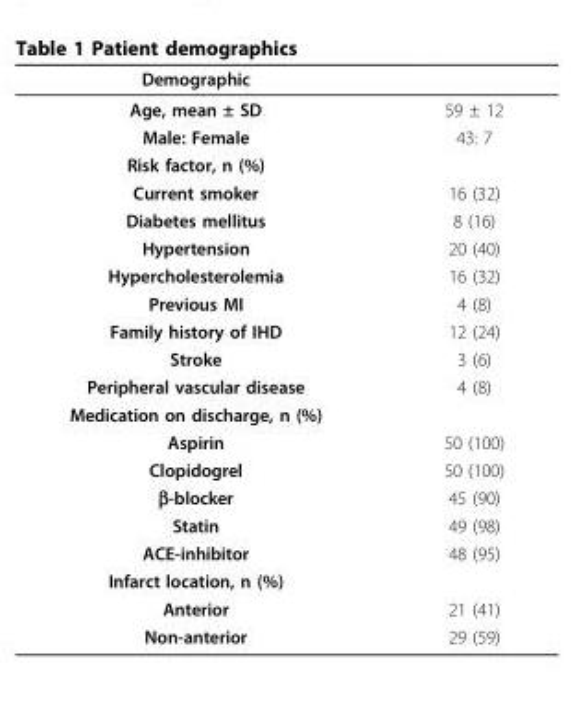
<table><thead><tr><td>Demographic</td><td></td></tr></thead><tbody><tr><td>Age, mean ± SD</td><td>59 ± 12</td></tr><tr><td>Male: Female</td><td>43: 7</td></tr><tr><td colspan="2">Risk factor, n (%)</td></tr><tr><td>Current smoker</td><td>16 (32)</td></tr><tr><td>Diabetes mellitus</td><td>8 (16)</td></tr><tr><td>Hypertension</td><td>20 (40)</td></tr><tr><td>Hypercholesterolemia</td><td>16 (32)</td></tr><tr><td>Previous MI</td><td>4 (8)</td></tr><tr><td>Family history of IHD</td><td>12 (24)</td></tr><tr><td>Stroke</td><td>3 (6)</td></tr><tr><td>Peripheral vascular disease</td><td>4 (8)</td></tr><tr><td colspan="2">Medication on discharge, n (%)</td></tr><tr><td>Aspirin</td><td>50 (100)</td></tr><tr><td>Clopidogrel</td><td>50 (100)</td></tr><tr><td>β-blocker</td><td>45 (90)</td></tr><tr><td>Statin</td><td>49 (98)</td></tr><tr><td>ACE-inhibitor</td><td>48 (95)</td></tr><tr><td colspan="2">Infarct location, n (%)</td></tr><tr><td>Anterior</td><td>21 (41)</td></tr><tr><td>Non-anterior</td><td>29 (59)</td></tr></tbody></table>